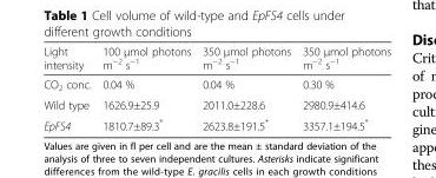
<table><thead><tr><td>Light intensity</td><td>100 μmol photons m<sup>−2</sup> s<sup>−1</sup></td><td>350 μmol photons m<sup>−2</sup> s<sup>−1</sup></td><td>350 μmol photons m<sup>−2</sup> s<sup>−1</sup></td></tr></thead><tbody><tr><td>CO<sub>2</sub> conc.</td><td>0.04 %</td><td>0.04 %</td><td>0.30 %</td></tr><tr><td>Wild type</td><td>1626.9±25.9</td><td>2011.0±228.6</td><td>2980.9±414.6</td></tr><tr><td>EpFS4</td><td>1810.7±89.3*</td><td>2623.8±191.5*</td><td>3357.1±194.5*</td></tr></tbody></table>